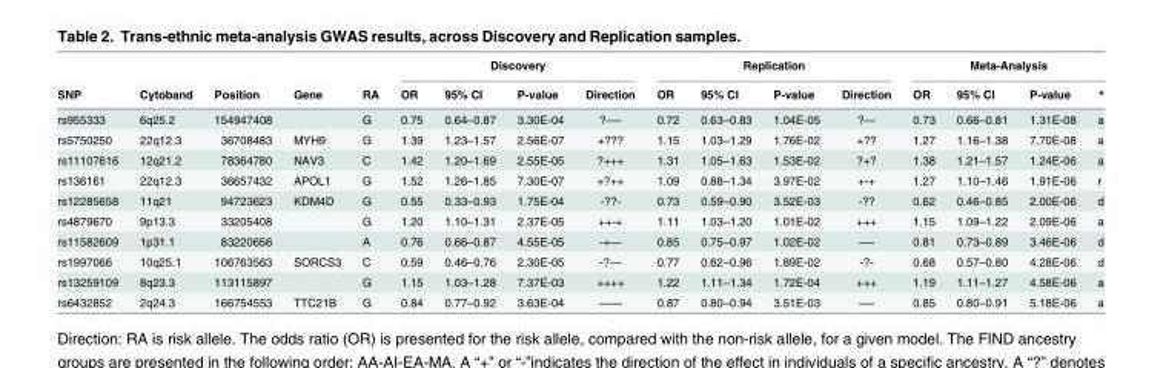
<table><thead><tr><td rowspan="2">SNP</td><td rowspan="2">Cytoband</td><td rowspan="2">Position</td><td rowspan="2">Gene</td><td rowspan="2">RA</td><td colspan="4">Discovery</td><td colspan="4">Replication</td><td colspan="4">Meta-Analysis</td></tr><tr><td>OR</td><td>95% CI</td><td>P-value</td><td>Direction</td><td>OR</td><td>95% CI</td><td>P-value</td><td>Direction</td><td>OR</td><td>95% CI</td><td>P-value</td><td>*</td></tr></thead><tbody><tr><td>rs955333</td><td>6q25.2</td><td>154947408</td><td></td><td>G</td><td>0.75</td><td>0.64–0.87</td><td>3.30E-04</td><td>?—-</td><td>0.72</td><td>0.63–0.83</td><td>1.04E-05</td><td>?—</td><td>0.73</td><td>0.66–0.81</td><td>1.31E-08</td><td>a</td></tr><tr><td>rs5750250</td><td>22q12.3</td><td>36708483</td><td>MYH9</td><td>G</td><td>1.39</td><td>1.23–1.57</td><td>2.56E-07</td><td>+???</td><td>1.15</td><td>1.03–1.29</td><td>1.76E-02</td><td>+??</td><td>1.27</td><td>1.16–1.38</td><td>7.70E-08</td><td>a</td></tr><tr><td>rs11107616</td><td>12q21.2</td><td>78364780</td><td>NAV3</td><td>C</td><td>1.42</td><td>1.20–1.69</td><td>2.55E-05</td><td>?+++</td><td>1.31</td><td>1.05–1.63</td><td>1.53E-02</td><td>?+?</td><td>1.38</td><td>1.21–1.57</td><td>1.24E-06</td><td>a</td></tr><tr><td>rs136161</td><td>22q12.3</td><td>36657432</td><td>APOL1</td><td>G</td><td>1.52</td><td>1.26–1.85</td><td>7.30E-07</td><td>+?++</td><td>1.09</td><td>0.88–1.34</td><td>3.97E-02</td><td>+-+</td><td>1.27</td><td>1.10–1.46</td><td>1.91E-06</td><td>r</td></tr><tr><td>rs12285658</td><td>11q21</td><td>94723623</td><td>KDM4D</td><td>G</td><td>0.55</td><td>0.33–0.93</td><td>1.75E-04</td><td>-??-</td><td>0.73</td><td>0.59–0.90</td><td>3.52E-03</td><td>-??</td><td>0.62</td><td>0.46–0.85</td><td>2.00E-06</td><td>d</td></tr><tr><td>rs4879670</td><td>9p13.3</td><td>33205408</td><td></td><td>G</td><td>1.20</td><td>1.10–1.31</td><td>2.37E-05</td><td>++-+</td><td>1.11</td><td>1.03–1.20</td><td>1.01E-02</td><td>+++</td><td>1.15</td><td>1.09–1.22</td><td>2.09E-06</td><td>a</td></tr><tr><td>rs11582609</td><td>1p31.1</td><td>83220656</td><td></td><td>A</td><td>0.76</td><td>0.66–0.87</td><td>4.55E-05</td><td>-+—</td><td>0.85</td><td>0.75–0.97</td><td>1.02E-02</td><td>—-</td><td>0.81</td><td>0.73–0.89</td><td>3.46E-06</td><td>d</td></tr><tr><td>rs1997066</td><td>10q25.1</td><td>106763563</td><td>SORCS3</td><td>C</td><td>0.59</td><td>0.46–0.76</td><td>2.30E-05</td><td>-?—</td><td>0.77</td><td>0.62–0.96</td><td>1.89E-02</td><td>-?-</td><td>0.68</td><td>0.57–0.80</td><td>4.28E-06</td><td>d</td></tr><tr><td>rs13259109</td><td>8q23.3</td><td>113115897</td><td></td><td>G</td><td>1.15</td><td>1.03–1.28</td><td>7.37E-03</td><td>++++</td><td>1.22</td><td>1.11–1.34</td><td>1.72E-04</td><td>+++</td><td>1.19</td><td>1.11–1.27</td><td>4.58E-06</td><td>a</td></tr><tr><td>rs6432852</td><td>2q24.3</td><td>166754553</td><td>TTC21B</td><td>G</td><td>0.84</td><td>0.77–0.92</td><td>3.63E-04</td><td>——</td><td>0.87</td><td>0.80–0.94</td><td>3.51E-03</td><td>—-</td><td>0.85</td><td>0.80–0.91</td><td>5.18E-06</td><td>a</td></tr></tbody></table>